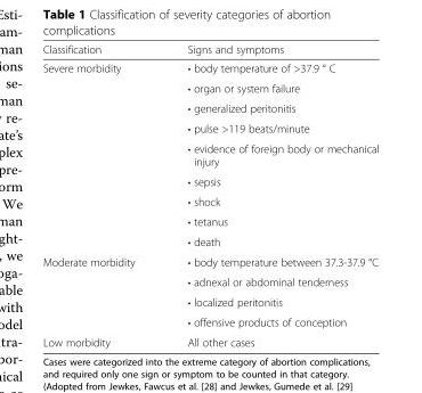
<table><thead><tr><td>Classification</td><td>Signs and symptoms</td></tr></thead><tbody><tr><td rowspan="9">Severe morbidity</td><td>• body temperature of &gt;37.9 ° C</td></tr><tr><td>• organ or system failure</td></tr><tr><td>• generalized peritonitis</td></tr><tr><td>• pulse &gt;119 beats/minute</td></tr><tr><td>• evidence of foreign body or mechanical injury</td></tr><tr><td>• sepsis</td></tr><tr><td>• shock</td></tr><tr><td>• tetanus</td></tr><tr><td>• death</td></tr><tr><td rowspan="4">Moderate morbidity</td><td>• body temperature between 37.3-37.9 °C</td></tr><tr><td>• adnexal or abdominal tenderness</td></tr><tr><td>• localized peritonitis</td></tr><tr><td>• offensive products of conception</td></tr><tr><td>Low morbidity</td><td>All other cases</td></tr></tbody></table>